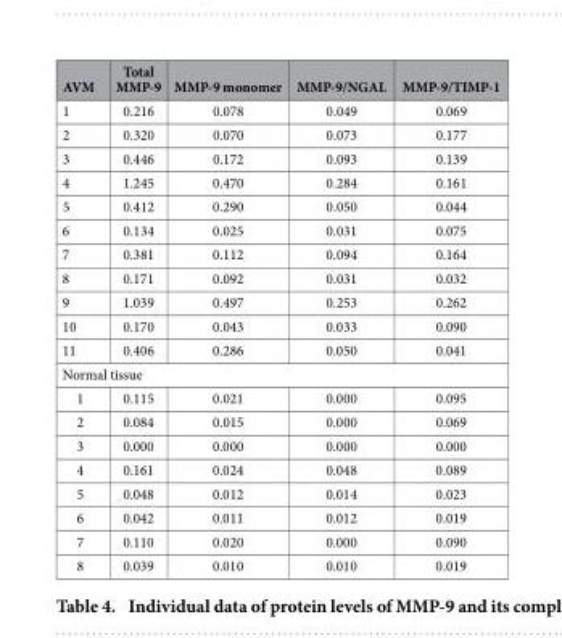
<table><thead><tr><td>AVM</td><td>Total MMP-9</td><td>MMP-9 monomer</td><td>MMP-9/NGAL</td><td>MMP-9/TIMP-1</td></tr></thead><tbody><tr><td>1</td><td>0.216</td><td>0.078</td><td>0.049</td><td>0.069</td></tr><tr><td>2</td><td>0.320</td><td>0.070</td><td>0.073</td><td>0.177</td></tr><tr><td>3</td><td>0.446</td><td>0.172</td><td>0.093</td><td>0.139</td></tr><tr><td>4</td><td>1.245</td><td>0.470</td><td>0.284</td><td>0.161</td></tr><tr><td>5</td><td>0.412</td><td>0.290</td><td>0.050</td><td>0.044</td></tr><tr><td>6</td><td>0.134</td><td>0.025</td><td>0.031</td><td>0.075</td></tr><tr><td>7</td><td>0.381</td><td>0.112</td><td>0.094</td><td>0.164</td></tr><tr><td>8</td><td>0.171</td><td>0.092</td><td>0.031</td><td>0.032</td></tr><tr><td>9</td><td>1.039</td><td>0.497</td><td>0.253</td><td>0.262</td></tr><tr><td>10</td><td>0.170</td><td>0.043</td><td>0.033</td><td>0.090</td></tr><tr><td>11</td><td>0.406</td><td>0.286</td><td>0.050</td><td>0.041</td></tr><tr><td colspan="5">Normal tissue</td></tr><tr><td>1</td><td>0.115</td><td>0.021</td><td>0.000</td><td>0.095</td></tr><tr><td>2</td><td>0.084</td><td>0.015</td><td>0.000</td><td>0.069</td></tr><tr><td>3</td><td>0.000</td><td>0.000</td><td>0.000</td><td>0.000</td></tr><tr><td>4</td><td>0.161</td><td>0.024</td><td>0.048</td><td>0.089</td></tr><tr><td>5</td><td>0.048</td><td>0.012</td><td>0.014</td><td>0.023</td></tr><tr><td>6</td><td>0.042</td><td>0.011</td><td>0.012</td><td>0.019</td></tr><tr><td>7</td><td>0.110</td><td>0.020</td><td>0.000</td><td>0.090</td></tr><tr><td>8</td><td>0.039</td><td>0.010</td><td>0.010</td><td>0.019</td></tr></tbody></table>